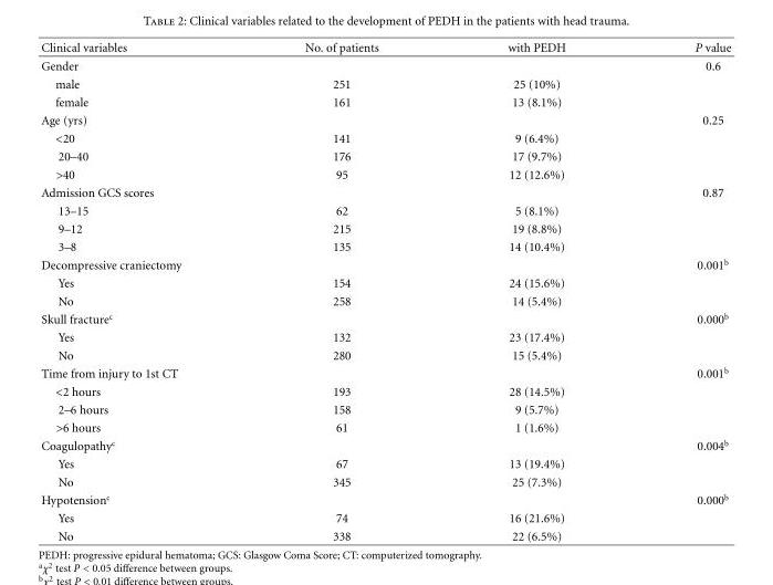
<table><thead><tr><td>Clinical variables</td><td>No. of patients</td><td>with PEDH</td><td>P value</td></tr></thead><tbody><tr><td>Gender</td><td></td><td></td><td>0.6</td></tr><tr><td>male</td><td>251</td><td>25 (10%)</td><td></td></tr><tr><td>female</td><td>161</td><td>13 (8.1%)</td><td></td></tr><tr><td>Age (yrs)</td><td></td><td></td><td>0.25</td></tr><tr><td>&lt;20</td><td>141</td><td>9 (6.4%)</td><td></td></tr><tr><td>20–40</td><td>176</td><td>17 (9.7%)</td><td></td></tr><tr><td>&gt;40</td><td>95</td><td>12 (12.6%)</td><td></td></tr><tr><td>Admission GCS scores</td><td></td><td></td><td>0.87</td></tr><tr><td>13–15</td><td>62</td><td>5 (8.1%)</td><td></td></tr><tr><td>9–12</td><td>215</td><td>19 (8.8%)</td><td></td></tr><tr><td>3–8</td><td>135</td><td>14 (10.4%)</td><td></td></tr><tr><td>Decompressive craniectomy</td><td></td><td></td><td>0.001<sup>b</sup></td></tr><tr><td>Yes</td><td>154</td><td>24 (15.6%)</td><td></td></tr><tr><td>No</td><td>258</td><td>14 (5.4%)</td><td></td></tr><tr><td>Skull fracture<sup>c</sup></td><td></td><td></td><td>0.000<sup>b</sup></td></tr><tr><td>Yes</td><td>132</td><td>23 (17.4%)</td><td></td></tr><tr><td>No</td><td>280</td><td>15 (5.4%)</td><td></td></tr><tr><td>Time from injury to 1st CT</td><td></td><td></td><td>0.001<sup>b</sup></td></tr><tr><td>&lt;2 hours</td><td>193</td><td>28 (14.5%)</td><td></td></tr><tr><td>2–6 hours</td><td>158</td><td>9 (5.7%)</td><td></td></tr><tr><td>&gt;6 hours</td><td>61</td><td>1 (1.6%)</td><td></td></tr><tr><td>Coagulopathy<sup>c</sup></td><td></td><td></td><td>0.004<sup>b</sup></td></tr><tr><td>Yes</td><td>67</td><td>13 (19.4%)</td><td></td></tr><tr><td>No</td><td>345</td><td>25 (7.3%)</td><td></td></tr><tr><td>Hypotension<sup>c</sup></td><td></td><td></td><td>0.000<sup>b</sup></td></tr><tr><td>Yes</td><td>74</td><td>16 (21.6%)</td><td></td></tr><tr><td>No</td><td>338</td><td>22 (6.5%)</td><td></td></tr></tbody></table>